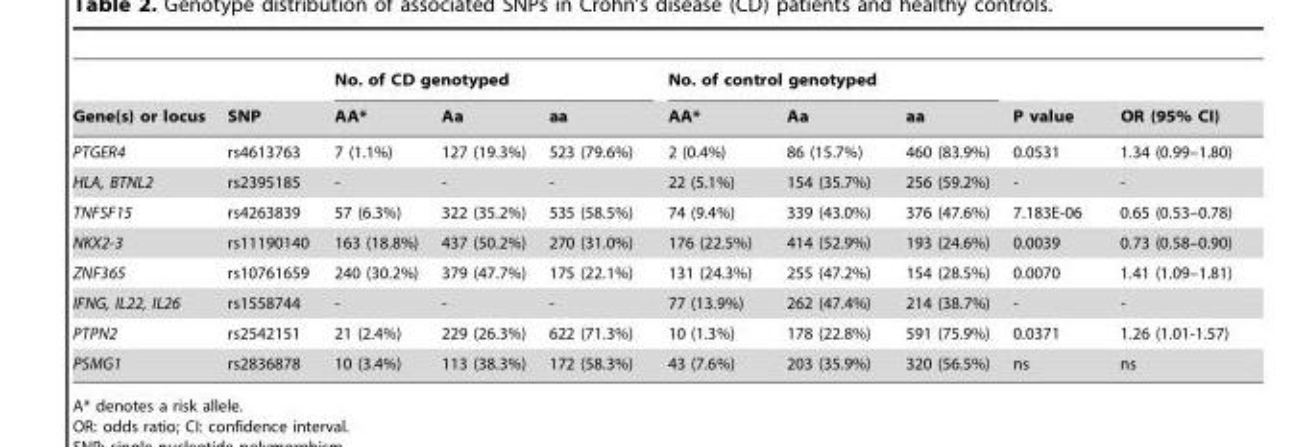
<table><thead><tr><td rowspan="2">Gene(s) or locus</td><td rowspan="2">SNP</td><td colspan="3">No. of CD genotyped</td><td colspan="3">No. of control genotyped</td><td rowspan="2">P value</td><td rowspan="2">OR (95% CI)</td></tr><tr><td>AA*</td><td>Aa</td><td>aa</td><td>AA*</td><td>Aa</td><td>aa</td></tr></thead><tbody><tr><td>PTGER4</td><td>rs4613763</td><td>7 (1.1%)</td><td>127 (19.3%)</td><td>523 (79.6%)</td><td>2 (0.4%)</td><td>86 (15.7%)</td><td>460 (83.9%)</td><td>0.0531</td><td>1.34 (0.99–1.80)</td></tr><tr><td>HLA, BTNL2</td><td>rs2395185</td><td>-</td><td>-</td><td>-</td><td>22 (5.1%)</td><td>154 (35.7%)</td><td>256 (59.2%)</td><td>-</td><td>-</td></tr><tr><td>TNFSF15</td><td>rs4263839</td><td>57 (6.3%)</td><td>322 (35.2%)</td><td>535 (58.5%)</td><td>74 (9.4%)</td><td>339 (43.0%)</td><td>376 (47.6%)</td><td>7.183E-06</td><td>0.65 (0.53–0.78)</td></tr><tr><td>NKX2-3</td><td>rs11190140</td><td>163 (18.8%)</td><td>437 (50.2%)</td><td>270 (31.0%)</td><td>176 (22.5%)</td><td>414 (52.9%)</td><td>193 (24.6%)</td><td>0.0039</td><td>0.73 (0.58–0.90)</td></tr><tr><td>ZNF365</td><td>rs10761659</td><td>240 (30.2%)</td><td>379 (47.7%)</td><td>175 (22.1%)</td><td>131 (24.3%)</td><td>255 (47.2%)</td><td>154 (28.5%)</td><td>0.0070</td><td>1.41 (1.09–1.81)</td></tr><tr><td>IFNG, IL22, IL26</td><td>rs1558744</td><td>-</td><td>-</td><td>-</td><td>77 (13.9%)</td><td>262 (47.4%)</td><td>214 (38.7%)</td><td>-</td><td>-</td></tr><tr><td>PTPN2</td><td>rs2542151</td><td>21 (2.4%)</td><td>229 (26.3%)</td><td>622 (71.3%)</td><td>10 (1.3%)</td><td>178 (22.8%)</td><td>591 (75.9%)</td><td>0.0371</td><td>1.26 (1.01-1.57)</td></tr><tr><td>PSMG1</td><td>rs2836878</td><td>10 (3.4%)</td><td>113 (38.3%)</td><td>172 (58.3%)</td><td>43 (7.6%)</td><td>203 (35.9%)</td><td>320 (56.5%)</td><td>ns</td><td>ns</td></tr></tbody></table>